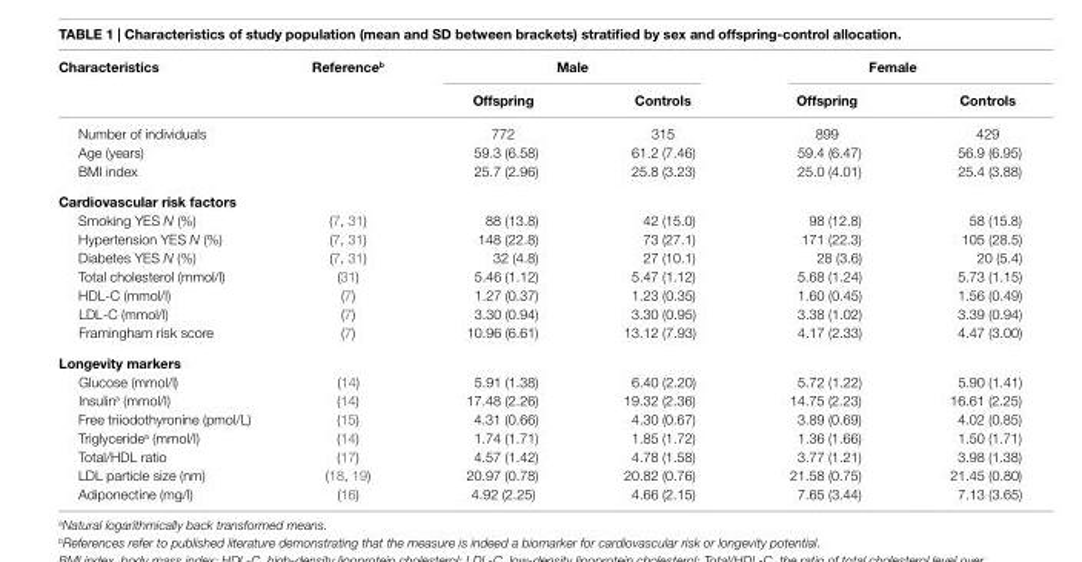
<table><thead><tr><td rowspan="2">characteristics</td><td rowspan="2">reference<sup>b</sup></td><td colspan="2">Male</td><td colspan="2">Female</td></tr><tr><td>Offspring</td><td>controls</td><td>Offspring</td><td>controls</td></tr></thead><tbody><tr><td>Number of individuals</td><td></td><td>772</td><td>315</td><td>899</td><td>429</td></tr><tr><td>Age (years)</td><td></td><td>59.3 (6.58)</td><td>61.2 (7.46)</td><td>59.4 (6.47)</td><td>56.9 (6.95)</td></tr><tr><td>BMI index</td><td></td><td>25.7 (2.96)</td><td>25.8 (3.23)</td><td>25.0 (4.01)</td><td>25.4 (3.88)</td></tr><tr><td colspan="6">cardiovascular risk factors</td></tr><tr><td>Smoking YES N (%)</td><td>(7, 31)</td><td>88 (13.8)</td><td>42 (15.0)</td><td>98 (12.8)</td><td>58 (15.8)</td></tr><tr><td>Hypertension YES N (%)</td><td>(7, 31)</td><td>148 (22.8)</td><td>73 (27.1)</td><td>171 (22.3)</td><td>105 (28.5)</td></tr><tr><td>Diabetes YES N (%)</td><td>(7, 31)</td><td>32 (4.8)</td><td>27 (10.1)</td><td>28 (3.6)</td><td>20 (5.4)</td></tr><tr><td>Total cholesterol (mmol/l)</td><td>(31)</td><td>5.46 (1.12)</td><td>5.47 (1.12)</td><td>5.68 (1.24)</td><td>5.73 (1.15)</td></tr><tr><td>HDL-C (mmol/l)</td><td>(7)</td><td>1.27 (0.37)</td><td>1.23 (0.35)</td><td>1.60 (0.45)</td><td>1.56 (0.49)</td></tr><tr><td>LDL-C (mmol/l)</td><td>(7)</td><td>3.30 (0.94)</td><td>3.30 (0.95)</td><td>3.38 (1.02)</td><td>3.39 (0.94)</td></tr><tr><td>Framingham risk score</td><td>(7)</td><td>10.96 (6.61)</td><td>13.12 (7.93)</td><td>4.17 (2.33)</td><td>4.47 (3.00)</td></tr><tr><td colspan="6">longevity markers</td></tr><tr><td>Glucose (mmol/l)</td><td>(14)</td><td>5.91 (1.38)</td><td>6.40 (2.20)</td><td>5.72 (1.22)</td><td>5.90 (1.41)</td></tr><tr><td>Insulin<sup>a</sup> (mmol/l)</td><td>(14)</td><td>17.48 (2.26)</td><td>19.32 (2.36)</td><td>14.75 (2.23)</td><td>16.61 (2.25)</td></tr><tr><td>Free triiodothyronine (pmol/L)</td><td>(15)</td><td>4.31 (0.66)</td><td>4.30 (0.67)</td><td>3.89 (0.69)</td><td>4.02 (0.85)</td></tr><tr><td>Triglyceride<sup>a</sup> (mmol/l)</td><td>(14)</td><td>1.74 (1.71)</td><td>1.85 (1.72)</td><td>1.36 (1.66)</td><td>1.50 (1.71)</td></tr><tr><td>Total/HDL ratio</td><td>(17)</td><td>4.57 (1.42)</td><td>4.78 (1.58)</td><td>3.77 (1.21)</td><td>3.98 (1.38)</td></tr><tr><td>LDL particle size (nm)</td><td>(18, 19)</td><td>20.97 (0.78)</td><td>20.82 (0.76)</td><td>21.58 (0.75)</td><td>21.45 (0.80)</td></tr><tr><td>Adiponectine (mg/l)</td><td>(16)</td><td>4.92 (2.25)</td><td>4.66 (2.15)</td><td>7.65 (3.44)</td><td>7.13 (3.65)</td></tr></tbody></table>